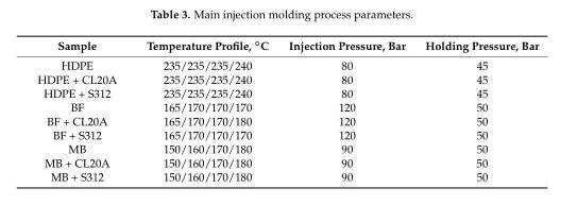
<table><thead><tr><td>Sample</td><td>Temperature Profile, ◦C</td><td>Injection Pressure, Bar</td><td>Holding Pressure, Bar</td></tr></thead><tbody><tr><td>HDPE</td><td>235/235/235/240</td><td>80</td><td>45</td></tr><tr><td>HDPE + CL20A</td><td>235/235/235/240</td><td>80</td><td>45</td></tr><tr><td>HDPE + S312</td><td>235/235/235/240</td><td>80</td><td>45</td></tr><tr><td>BF</td><td>165/170/170/170</td><td>120</td><td>50</td></tr><tr><td>BF + CL20A</td><td>165/170/170/180</td><td>120</td><td>50</td></tr><tr><td>BF + S312</td><td>165/170/170/170</td><td>120</td><td>50</td></tr><tr><td>MB</td><td>150/160/170/180</td><td>90</td><td>50</td></tr><tr><td>MB + CL20A</td><td>150/160/170/180</td><td>90</td><td>50</td></tr><tr><td>MB + S312</td><td>150/160/170/180</td><td>90</td><td>50</td></tr></tbody></table>